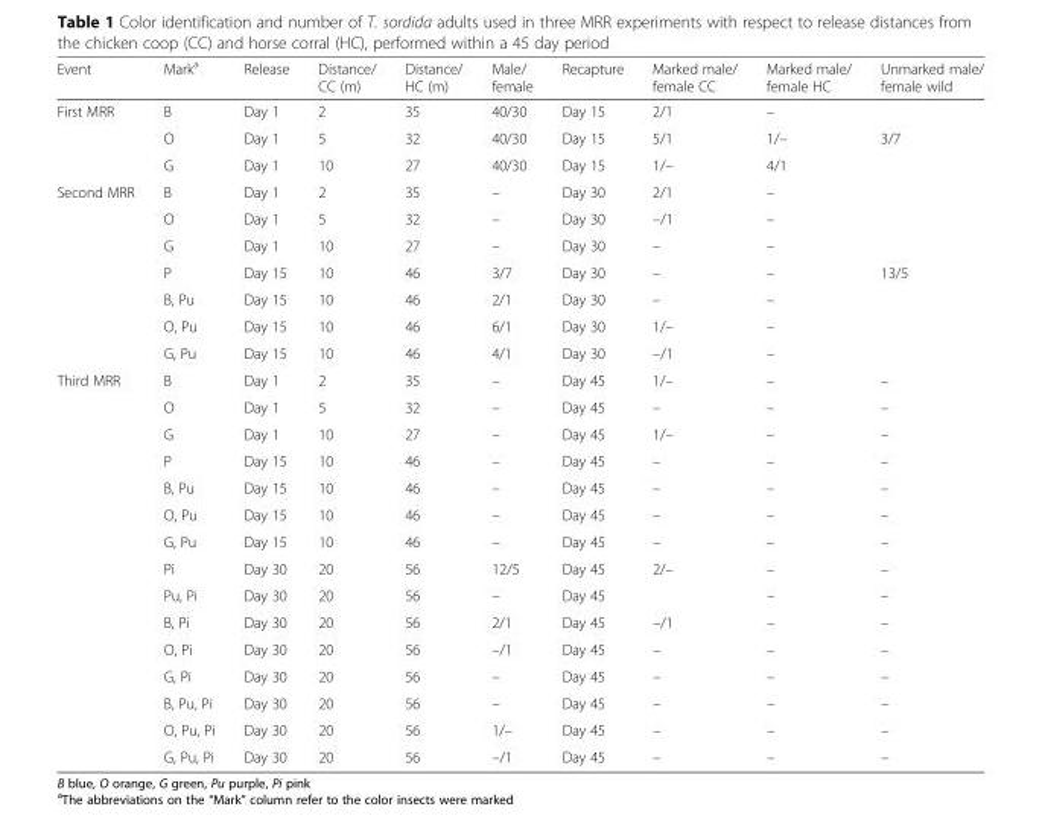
<table><thead><tr><td>Event</td><td>Mark<sup>a</sup></td><td>Release</td><td>Distance/ CC (m)</td><td>Distance/ HC (m)</td><td>Male/ female</td><td>Recapture</td><td>Marked male/ female CC</td><td>Marked male/ female HC</td><td>Unmarked male/ female wild</td></tr></thead><tbody><tr><td rowspan="3">First MRR</td><td>B</td><td>Day 1</td><td>2</td><td>35</td><td>40/30</td><td>Day 15</td><td>2/1</td><td>–</td><td></td></tr><tr><td>O</td><td>Day 1</td><td>5</td><td>32</td><td>40/30</td><td>Day 15</td><td>5/1</td><td>1/–</td><td>3/7</td></tr><tr><td>G</td><td>Day 1</td><td>10</td><td>27</td><td>40/30</td><td>Day 15</td><td>1/–</td><td>4/1</td><td></td></tr><tr><td rowspan="7">Second MRR</td><td>B</td><td>Day 1</td><td>2</td><td>35</td><td>–</td><td>Day 30</td><td>2/1</td><td>–</td><td></td></tr><tr><td>O</td><td>Day 1</td><td>5</td><td>32</td><td>–</td><td>Day 30</td><td>–/1</td><td>–</td><td></td></tr><tr><td>G</td><td>Day 1</td><td>10</td><td>27</td><td>–</td><td>Day 30</td><td>–</td><td>–</td><td></td></tr><tr><td>P</td><td>Day 15</td><td>10</td><td>46</td><td>3/7</td><td>Day 30</td><td>–</td><td>–</td><td>13/5</td></tr><tr><td>B, Pu</td><td>Day 15</td><td>10</td><td>46</td><td>2/1</td><td>Day 30</td><td>–</td><td>–</td><td></td></tr><tr><td>O, Pu</td><td>Day 15</td><td>10</td><td>46</td><td>6/1</td><td>Day 30</td><td>1/–</td><td>–</td><td></td></tr><tr><td>G, Pu</td><td>Day 15</td><td>10</td><td>46</td><td>4/1</td><td>Day 30</td><td>–/1</td><td>–</td><td></td></tr><tr><td rowspan="15">Third MRR</td><td>B</td><td>Day 1</td><td>2</td><td>35</td><td>–</td><td>Day 45</td><td>1/–</td><td>–</td><td>–</td></tr><tr><td>O</td><td>Day 1</td><td>5</td><td>32</td><td>–</td><td>Day 45</td><td>–</td><td>–</td><td>–</td></tr><tr><td>G</td><td>Day 1</td><td>10</td><td>27</td><td>–</td><td>Day 45</td><td>1/–</td><td>–</td><td>–</td></tr><tr><td>P</td><td>Day 15</td><td>10</td><td>46</td><td>–</td><td>Day 45</td><td>–</td><td>–</td><td>–</td></tr><tr><td>B, Pu</td><td>Day 15</td><td>10</td><td>46</td><td>–</td><td>Day 45</td><td>–</td><td>–</td><td>–</td></tr><tr><td>O, Pu</td><td>Day 15</td><td>10</td><td>46</td><td>–</td><td>Day 45</td><td>–</td><td>–</td><td>–</td></tr><tr><td>G, Pu</td><td>Day 15</td><td>10</td><td>46</td><td>–</td><td>Day 45</td><td>–</td><td>–</td><td>–</td></tr><tr><td>Pi</td><td>Day 30</td><td>20</td><td>56</td><td>12/5</td><td>Day 45</td><td>2/–</td><td>–</td><td>–</td></tr><tr><td>Pu, Pi</td><td>Day 30</td><td>20</td><td>56</td><td>–</td><td>Day 45</td><td></td><td>–</td><td>–</td></tr><tr><td>B, Pi</td><td>Day 30</td><td>20</td><td>56</td><td>2/1</td><td>Day 45</td><td>–/1</td><td>–</td><td>–</td></tr><tr><td>O, Pi</td><td>Day 30</td><td>20</td><td>56</td><td>–/1</td><td>Day 45</td><td>–</td><td>–</td><td>–</td></tr><tr><td>G, Pi</td><td>Day 30</td><td>20</td><td>56</td><td>–</td><td>Day 45</td><td>–</td><td>–</td><td>–</td></tr><tr><td>B, Pu, Pi</td><td>Day 30</td><td>20</td><td>56</td><td>–</td><td>Day 45</td><td>–</td><td>–</td><td>–</td></tr><tr><td>O, Pu, Pi</td><td>Day 30</td><td>20</td><td>56</td><td>1/–</td><td>Day 45</td><td>–</td><td>–</td><td>–</td></tr><tr><td>G, Pu, Pi</td><td>Day 30</td><td>20</td><td>56</td><td>–/1</td><td>Day 45</td><td>–</td><td>–</td><td>–</td></tr></tbody></table>